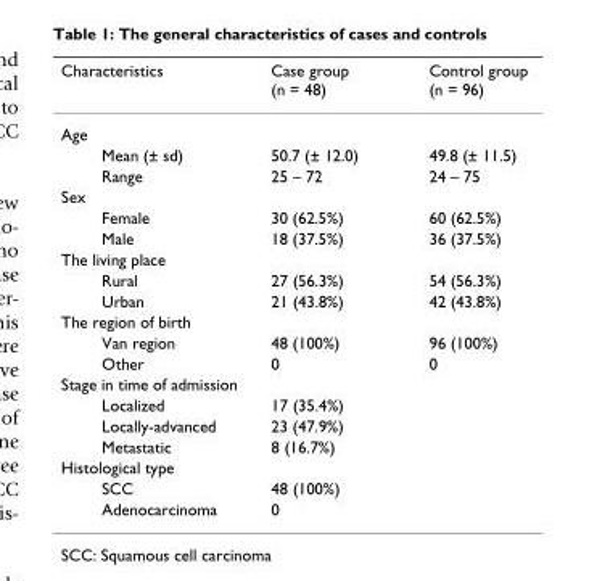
<table><thead><tr><td>Characteristics</td><td>Case group (n = 48)</td><td>Control group (n = 96)</td></tr></thead><tbody><tr><td colspan="3">Age</td></tr><tr><td>Mean (± sd)</td><td>50.7 (± 12.0)</td><td>49.8 (± 11.5)</td></tr><tr><td>Range</td><td>25 – 72</td><td>24 – 75</td></tr><tr><td colspan="3">Sex</td></tr><tr><td>Female</td><td>30 (62.5%)</td><td>60 (62.5%)</td></tr><tr><td>Male</td><td>18 (37.5%)</td><td>36 (37.5%)</td></tr><tr><td colspan="3">The living place</td></tr><tr><td>Rural</td><td>27 (56.3%)</td><td>54 (56.3%)</td></tr><tr><td>Urban</td><td>21 (43.8%)</td><td>42 (43.8%)</td></tr><tr><td colspan="3">The region of birth</td></tr><tr><td>Van region</td><td>48 (100%)</td><td>96 (100%)</td></tr><tr><td>Other</td><td>0</td><td>0</td></tr><tr><td colspan="3">Stage in time of admission</td></tr><tr><td>Localized</td><td>17 (35.4%)</td><td></td></tr><tr><td>Locally-advanced</td><td>23 (47.9%)</td><td></td></tr><tr><td>Metastatic</td><td>8 (16.7%)</td><td></td></tr><tr><td colspan="3">Histological type</td></tr><tr><td>SCC</td><td>48 (100%)</td><td></td></tr><tr><td>Adenocarcinoma</td><td>0</td><td></td></tr></tbody></table>